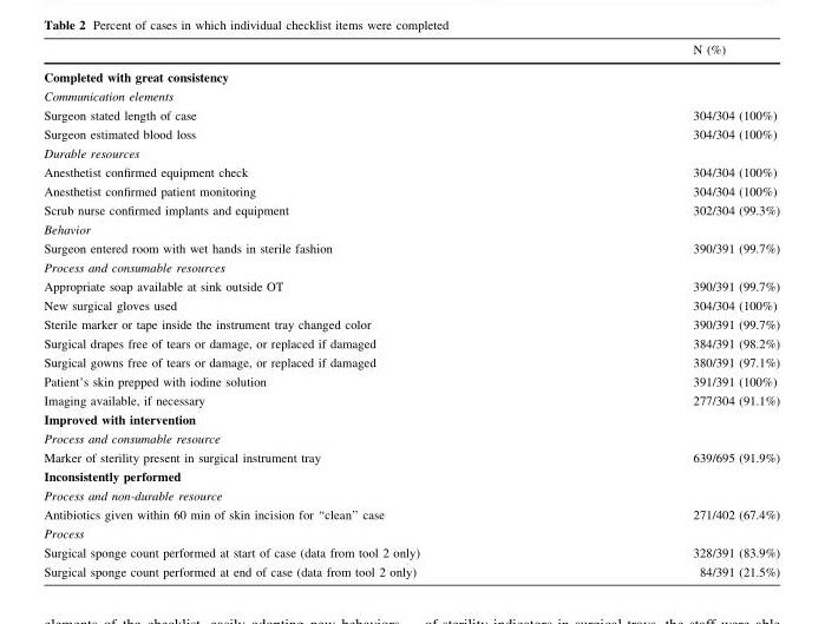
<table><thead><tr><td></td><td>N (%)</td></tr></thead><tbody><tr><td colspan="2">Completed with great consistency</td></tr><tr><td colspan="2">Communication elements</td></tr><tr><td>Surgeon stated length of case</td><td>304/304 (100%)</td></tr><tr><td>Surgeon estimated blood loss</td><td>304/304 (100%)</td></tr><tr><td colspan="2">Durable resources</td></tr><tr><td>Anesthetist confirmed equipment check</td><td>304/304 (100%)</td></tr><tr><td>Anesthetist confirmed patient monitoring</td><td>304/304 (100%)</td></tr><tr><td>Scrub nurse confirmed implants and equipment</td><td>302/304 (99.3%)</td></tr><tr><td colspan="2">Behavior</td></tr><tr><td>Surgeon entered room with wet hands in sterile fashion</td><td>390/391 (99.7%)</td></tr><tr><td colspan="2">Process and consumable resources</td></tr><tr><td>Appropriate soap available at sink outside OT</td><td>390/391 (99.7%)</td></tr><tr><td>New surgical gloves used</td><td>304/304 (100%)</td></tr><tr><td>Sterile marker or tape inside the instrument tray changed color</td><td>390/391 (99.7%)</td></tr><tr><td>Surgical drapes free of tears or damage, or replaced if damaged</td><td>384/391 (98.2%)</td></tr><tr><td>Surgical gowns free of tears or damage, or replaced if damaged</td><td>380/391 (97.1%)</td></tr><tr><td>Patient’s skin prepped with iodine solution</td><td>391/391 (100%)</td></tr><tr><td>Imaging available, if necessary</td><td>277/304 (91.1%)</td></tr><tr><td colspan="2">Improved with intervention</td></tr><tr><td colspan="2">Process and consumable resource</td></tr><tr><td>Marker of sterility present in surgical instrument tray</td><td>639/695 (91.9%)</td></tr><tr><td colspan="2">Inconsistently performed</td></tr><tr><td colspan="2">Process and non-durable resource</td></tr><tr><td>Antibiotics given within 60 min of skin incision for ‘‘clean’’ case</td><td>271/402 (67.4%)</td></tr><tr><td colspan="2">Process</td></tr><tr><td>Surgical sponge count performed at start of case (data from tool 2 only)</td><td>328/391 (83.9%)</td></tr><tr><td>Surgical sponge count performed at end of case (data from tool 2 only)</td><td>84/391 (21.5%)</td></tr></tbody></table>